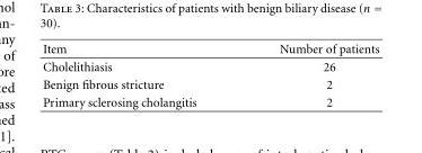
<table><thead><tr><td>Item</td><td>Number of patients</td></tr></thead><tbody><tr><td>Cholelithiasis</td><td>26</td></tr><tr><td>Benign fibrous stricture</td><td>2</td></tr><tr><td>Primary sclerosing cholangitis</td><td>2</td></tr></tbody></table>